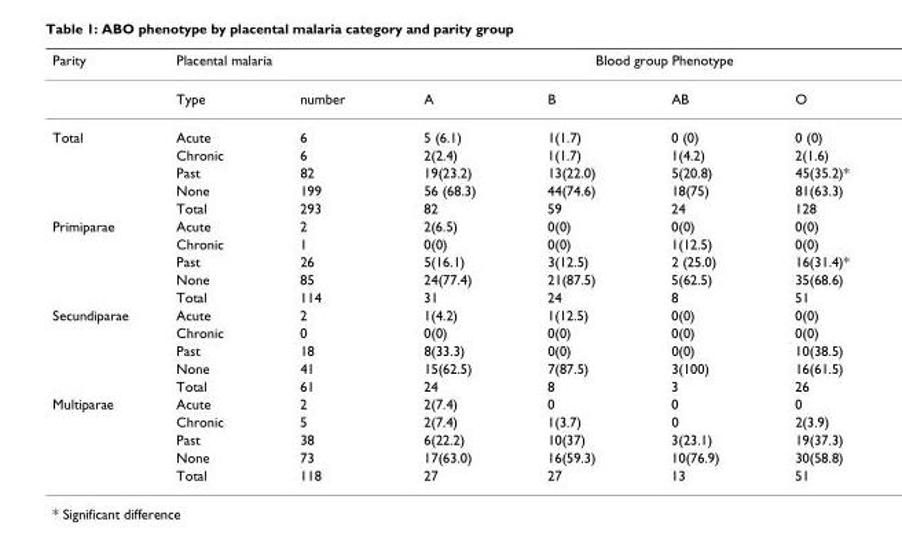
<table><thead><tr><td rowspan="2">Parity</td><td colspan="2">Placental malaria</td><td colspan="4">Blood group Phenotype</td></tr><tr><td>Type</td><td>number</td><td>A</td><td>B</td><td>AB</td><td>O</td></tr></thead><tbody><tr><td rowspan="5">Total</td><td>Acute</td><td>6</td><td>5 (6.1)</td><td>1(1.7)</td><td>0 (0)</td><td>0 (0)</td></tr><tr><td>Chronic</td><td>6</td><td>2(2.4)</td><td>1(1.7)</td><td>1(4.2)</td><td>2(1.6)</td></tr><tr><td>Past</td><td>82</td><td>19(23.2)</td><td>13(22.0)</td><td>5(20.8)</td><td>45(35.2)*</td></tr><tr><td>None</td><td>199</td><td>56 (68.3)</td><td>44(74.6)</td><td>18(75)</td><td>81(63.3)</td></tr><tr><td>Total</td><td>293</td><td>82</td><td>59</td><td>24</td><td>128</td></tr><tr><td rowspan="5">Primiparae</td><td>Acute</td><td>2</td><td>2(6.5)</td><td>0(0)</td><td>0(0)</td><td>0(0)</td></tr><tr><td>Chronic</td><td>1</td><td>0(0)</td><td>0(0)</td><td>1(12.5)</td><td>0(0)</td></tr><tr><td>Past</td><td>26</td><td>5(16.1)</td><td>3(12.5)</td><td>2 (25.0)</td><td>16(31.4)*</td></tr><tr><td>None</td><td>85</td><td>24(77.4)</td><td>21(87.5)</td><td>5(62.5)</td><td>35(68.6)</td></tr><tr><td>Total</td><td>114</td><td>31</td><td>24</td><td>8</td><td>51</td></tr><tr><td rowspan="5">Secundiparae</td><td>Acute</td><td>2</td><td>1(4.2)</td><td>1(12.5)</td><td>0(0)</td><td>0(0)</td></tr><tr><td>Chronic</td><td>0</td><td>0(0)</td><td>0(0)</td><td>0(0)</td><td>0(0)</td></tr><tr><td>Past</td><td>18</td><td>8(33.3)</td><td>0(0)</td><td>0(0)</td><td>10(38.5)</td></tr><tr><td>None</td><td>41</td><td>15(62.5)</td><td>7(87.5)</td><td>3(100)</td><td>16(61.5)</td></tr><tr><td>Total</td><td>61</td><td>24</td><td>8</td><td>3</td><td>26</td></tr><tr><td rowspan="5">Multiparae</td><td>Acute</td><td>2</td><td>2(7.4)</td><td>0</td><td>0</td><td>0</td></tr><tr><td>Chronic</td><td>5</td><td>2(7.4)</td><td>1(3.7)</td><td>0</td><td>2(3.9)</td></tr><tr><td>Past</td><td>38</td><td>6(22.2)</td><td>10(37)</td><td>3(23.1)</td><td>19(37.3)</td></tr><tr><td>None</td><td>73</td><td>17(63.0)</td><td>16(59.3)</td><td>10(76.9)</td><td>30(58.8)</td></tr><tr><td>Total</td><td>118</td><td>27</td><td>27</td><td>13</td><td>51</td></tr></tbody></table>